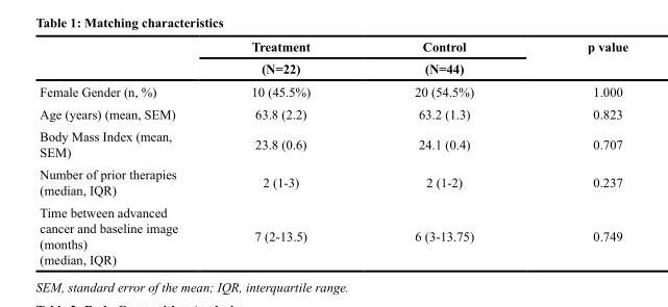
<table><thead><tr><td rowspan="2"></td><td rowspan="2">Treatment (N=22)</td><td rowspan="2">Control (N=44)</td><td rowspan="2">p value</td></tr><tr></tr></thead><tbody><tr><td>Female Gender (n, %)</td><td>10 (45.5%)</td><td>20 (54.5%)</td><td>1.000</td></tr><tr><td>Age (years) (mean, SEM)</td><td>63.8 (2.2)</td><td>63.2 (1.3)</td><td>0.823</td></tr><tr><td>Body Mass Index (mean, SEM)</td><td>23.8 (0.6)</td><td>24.1 (0.4)</td><td>0.707</td></tr><tr><td>Number of prior therapies (median, IQR)</td><td>2 (1-3)</td><td>2 (1-2)</td><td>0.237</td></tr><tr><td>Time between advanced cancer and baseline image (months) (median, IQR)</td><td>7 (2-13.5)</td><td>6 (3-13.75)</td><td>0.749</td></tr></tbody></table>